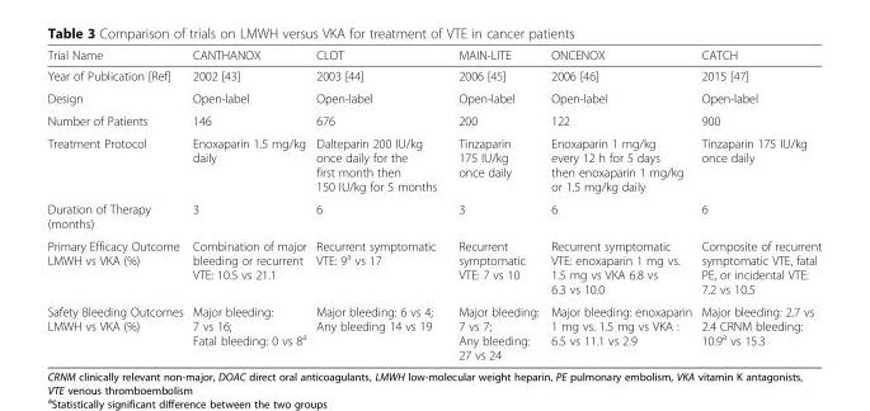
<table><thead><tr><td>Trial Name</td><td>CANTHANOX</td><td>CLOT</td><td>MAIN-LITE</td><td>ONCENOX</td><td>CATCH</td></tr></thead><tbody><tr><td>Year of Publication [Ref]</td><td>2002 [43]</td><td>2003 [44]</td><td>2006 [45]</td><td>2006 [46]</td><td>2015 [47]</td></tr><tr><td>Design</td><td>Open-label</td><td>Open-label</td><td>Open-label</td><td>Open-label</td><td>Open-label</td></tr><tr><td>Number of Patients</td><td>146</td><td>676</td><td>200</td><td>122</td><td>900</td></tr><tr><td>Treatment Protocol</td><td>Enoxaparin 1.5 mg/kg daily</td><td>Dalteparin 200 IU/kg once daily for the first month then 150 IU/kg for 5 months</td><td>Tinzaparin 175 IU/kg once daily</td><td>Enoxaparin 1 mg/kg every 12 h for 5 days then enoxaparin 1 mg/kg or 1.5 mg/kg daily</td><td>Tinzaparin 175 IU/kg once daily</td></tr><tr><td>Duration of Therapy (months)</td><td>3</td><td>6</td><td>3</td><td>6</td><td>6</td></tr><tr><td>Primary Efficacy Outcome LMWH vs VKA (%)</td><td>Combination of major bleeding or recurrent VTE: 10.5 vs 21.1</td><td>Recurrent symptomatic VTE: 9<sup>a</sup> vs 17</td><td>Recurrent symptomatic VTE: 7 vs 10</td><td>Recurrent symptomatic VTE: enoxaparin 1 mg vs. 1.5 mg vs VKA 6.8 vs 6.3 vs 10.0</td><td>Composite of recurrent symptomatic VTE, fatal PE, or incidental VTE: 7.2 vs 10.5</td></tr><tr><td>Safety Bleeding Outcomes LMWH vs VKA (%)</td><td>Major bleeding: 7 vs 16; Fatal bleeding: 0 vs 8<sup>a</sup></td><td>Major bleeding: 6 vs 4; Any bleeding 14 vs 19</td><td>Major bleeding: 7 vs 7; Any bleeding: 27 vs 24</td><td>Major bleeding: enoxaparin 1 mg vs. 1.5 mg vs VKA : 6.5 vs 11.1 vs 2.9</td><td>Major bleeding: 2.7 vs 2.4 CRNM bleeding: 10.9<sup>a</sup> vs 15.3</td></tr></tbody></table>